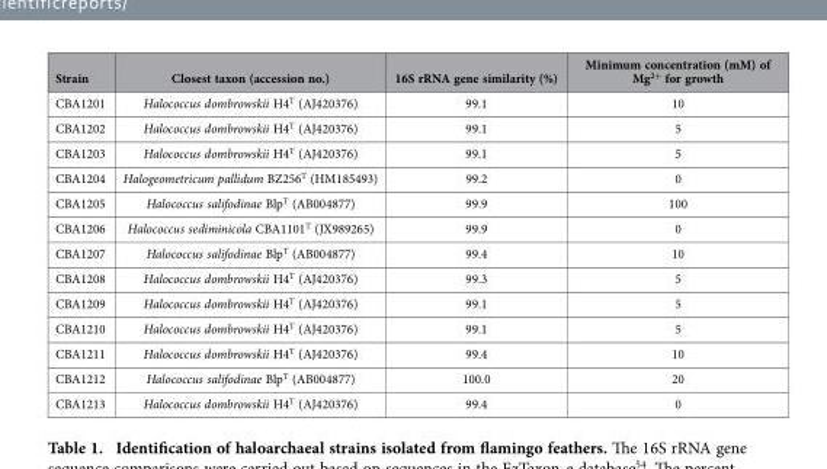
<table><thead><tr><td>Strain</td><td>Closest taxon (accession no.)</td><td>16S rRNA gene similarity (%)</td><td>Minimum concentration (mM) of Mg<sup>2+</sup> for growth</td></tr></thead><tbody><tr><td>CBA1201</td><td>Halococcus dombrowskii H4<sup>T</sup> (AJ420376)</td><td>99.1</td><td>10</td></tr><tr><td>CBA1202</td><td>Halococcus dombrowskii H4<sup>T</sup> (AJ420376)</td><td>99.1</td><td>5</td></tr><tr><td>CBA1203</td><td>Halococcus dombrowskii H4<sup>T</sup> (AJ420376)</td><td>99.1</td><td>5</td></tr><tr><td>CBA1204</td><td>Halogeometricum pallidum BZ256<sup>T</sup> (HM185493)</td><td>99.2</td><td>0</td></tr><tr><td>CBA1205</td><td>Halococcus salifodinae Blp<sup>T</sup> (AB004877)</td><td>99.9</td><td>100</td></tr><tr><td>CBA1206</td><td>Halococcus sediminicola CBA1101<sup>T</sup> (JX989265)</td><td>99.9</td><td>0</td></tr><tr><td>CBA1207</td><td>Halococcus salifodinae Blp<sup>T</sup> (AB004877)</td><td>99.4</td><td>10</td></tr><tr><td>CBA1208</td><td>Halococcus dombrowskii H4<sup>T</sup> (AJ420376)</td><td>99.3</td><td>5</td></tr><tr><td>CBA1209</td><td>Halococcus dombrowskii H4<sup>T</sup> (AJ420376)</td><td>99.1</td><td>5</td></tr><tr><td>CBA1210</td><td>Halococcus dombrowskii H4<sup>T</sup> (AJ420376)</td><td>99.1</td><td>5</td></tr><tr><td>CBA1211</td><td>Halococcus dombrowskii H4<sup>T</sup> (AJ420376)</td><td>99.4</td><td>10</td></tr><tr><td>CBA1212</td><td>Halococcus salifodinae Blp<sup>T</sup> (AB004877)</td><td>100.0</td><td>20</td></tr><tr><td>CBA1213</td><td>Halococcus dombrowskii H4<sup>T</sup> (AJ420376)</td><td>99.4</td><td>0</td></tr></tbody></table>